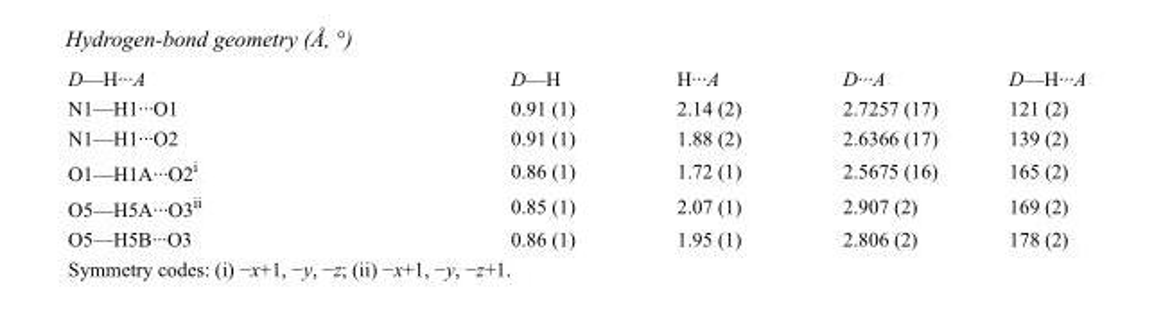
<table><tbody><tr><td>D—H···A</td><td>D—H</td><td>H···A</td><td>D···A</td><td>D—H···A</td></tr><tr><td>N1—H1···O1</td><td>0.91 (1)</td><td>2.14 (2)</td><td>2.7257 (17)</td><td>121 (2)</td></tr><tr><td>N1—H1···O2</td><td>0.91 (1)</td><td>1.88 (2)</td><td>2.6366 (17)</td><td>139 (2)</td></tr><tr><td>O1—H1A···O2<sup>i</sup></td><td>0.86 (1)</td><td>1.72 (1)</td><td>2.5675 (16)</td><td>165 (2)</td></tr><tr><td>O5—H5A···O3<sup>ii</sup></td><td>0.85 (1)</td><td>2.07 (1)</td><td>2.907 (2)</td><td>169 (2)</td></tr><tr><td>O5—H5B···O3</td><td>0.86 (1)</td><td>1.95 (1)</td><td>2.806 (2)</td><td>178 (2)</td></tr></tbody></table>